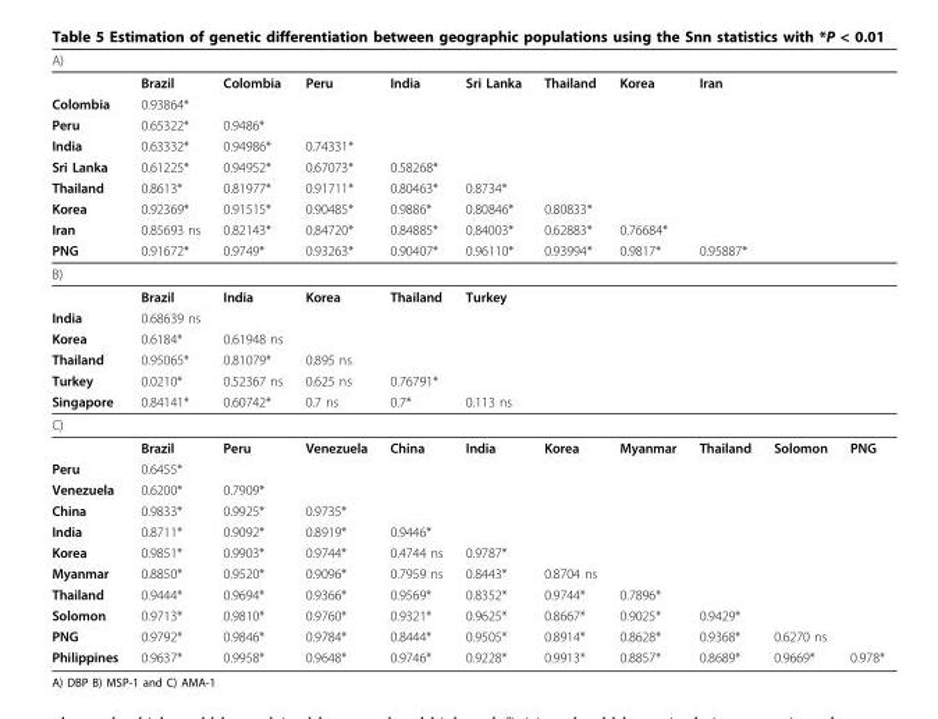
<table><thead><tr><td>A)</td><td></td><td></td><td></td><td></td><td></td><td></td><td></td><td></td><td></td><td></td></tr></thead><tbody><tr><td></td><td>Brazil</td><td>Colombia</td><td>Peru</td><td>India</td><td>Sri Lanka</td><td>Thailand</td><td>Korea</td><td>Iran</td><td></td><td></td></tr><tr><td>Colombia</td><td>0.93864*</td><td></td><td></td><td></td><td></td><td></td><td></td><td></td><td></td><td></td></tr><tr><td>Peru</td><td>0.65322*</td><td>0.9486*</td><td></td><td></td><td></td><td></td><td></td><td></td><td></td><td></td></tr><tr><td>India</td><td>0.63332*</td><td>0.94986*</td><td>0.74331*</td><td></td><td></td><td></td><td></td><td></td><td></td><td></td></tr><tr><td>Sri Lanka</td><td>0.61225*</td><td>0.94952*</td><td>0.67073*</td><td>0.58268*</td><td></td><td></td><td></td><td></td><td></td><td></td></tr><tr><td>Thailand</td><td>0.8613*</td><td>0.81977*</td><td>0.91711*</td><td>0.80463*</td><td>0.8734*</td><td></td><td></td><td></td><td></td><td></td></tr><tr><td>Korea</td><td>0.92369*</td><td>0.91515*</td><td>0.90485*</td><td>0.9886*</td><td>0.80846*</td><td>0.80833*</td><td></td><td></td><td></td><td></td></tr><tr><td>Iran</td><td>0.85693 ns</td><td>0.82143*</td><td>0.84720*</td><td>0.84885*</td><td>0.84003*</td><td>0.62883*</td><td>0.76684*</td><td></td><td></td><td></td></tr><tr><td>PNG</td><td>0.91672*</td><td>0.9749*</td><td>0.93263*</td><td>0.90407*</td><td>0.96110*</td><td>0.93994*</td><td>0.9817*</td><td>0.95887*</td><td></td><td></td></tr><tr><td colspan="11">B)</td></tr><tr><td></td><td>Brazil</td><td>India</td><td>Korea</td><td>Thailand</td><td>Turkey</td><td></td><td></td><td></td><td></td><td></td></tr><tr><td>India</td><td>0.68639 ns</td><td></td><td></td><td></td><td></td><td></td><td></td><td></td><td></td><td></td></tr><tr><td>Korea</td><td>0.6184*</td><td>0.61948 ns</td><td></td><td></td><td></td><td></td><td></td><td></td><td></td><td></td></tr><tr><td>Thailand</td><td>0.95065*</td><td>0.81079*</td><td>0.895 ns</td><td></td><td></td><td></td><td></td><td></td><td></td><td></td></tr><tr><td>Turkey</td><td>0.0210*</td><td>0.52367 ns</td><td>0.625 ns</td><td>0.76791*</td><td></td><td></td><td></td><td></td><td></td><td></td></tr><tr><td>Singapore</td><td>0.84141*</td><td>0.60742*</td><td>0.7 ns</td><td>0.7*</td><td>0.113 ns</td><td></td><td></td><td></td><td></td><td></td></tr><tr><td colspan="11">C)</td></tr><tr><td></td><td>Brazil</td><td>Peru</td><td>Venezuela</td><td>China</td><td>India</td><td>Korea</td><td>Myanmar</td><td>Thailand</td><td>Solomon</td><td>PNG</td></tr><tr><td>Peru</td><td>0.6455*</td><td></td><td></td><td></td><td></td><td></td><td></td><td></td><td></td><td></td></tr><tr><td>Venezuela</td><td>0.6200*</td><td>0.7909*</td><td></td><td></td><td></td><td></td><td></td><td></td><td></td><td></td></tr><tr><td>China</td><td>0.9833*</td><td>0.9925*</td><td>0.9735*</td><td></td><td></td><td></td><td></td><td></td><td></td><td></td></tr><tr><td>India</td><td>0.8711*</td><td>0.9092*</td><td>0.8919*</td><td>0.9446*</td><td></td><td></td><td></td><td></td><td></td><td></td></tr><tr><td>Korea</td><td>0.9851*</td><td>0.9903*</td><td>0.9744*</td><td>0.4744 ns</td><td>0.9787*</td><td></td><td></td><td></td><td></td><td></td></tr><tr><td>Myanmar</td><td>0.8850*</td><td>0.9520*</td><td>0.9096*</td><td>0.7959 ns</td><td>0.8443*</td><td>0.8704 ns</td><td></td><td></td><td></td><td></td></tr><tr><td>Thailand</td><td>0.9444*</td><td>0.9694*</td><td>0.9366*</td><td>0.9569*</td><td>0.8352*</td><td>0.9744*</td><td>0.7896*</td><td></td><td></td><td></td></tr><tr><td>Solomon</td><td>0.9713*</td><td>0.9810*</td><td>0.9760*</td><td>0.9321*</td><td>0.9625*</td><td>0.8667*</td><td>0.9025*</td><td>0.9429*</td><td></td><td></td></tr><tr><td>PNG</td><td>0.9792*</td><td>0.9846*</td><td>0.9784*</td><td>0.8444*</td><td>0.9505*</td><td>0.8914*</td><td>0.8628*</td><td>0.9368*</td><td>0.6270 ns</td><td></td></tr><tr><td>Philippines</td><td>0.9637*</td><td>0.9958*</td><td>0.9648*</td><td>0.9746*</td><td>0.9228*</td><td>0.9913*</td><td>0.8857*</td><td>0.8689*</td><td>0.9669*</td><td>0.978*</td></tr></tbody></table>